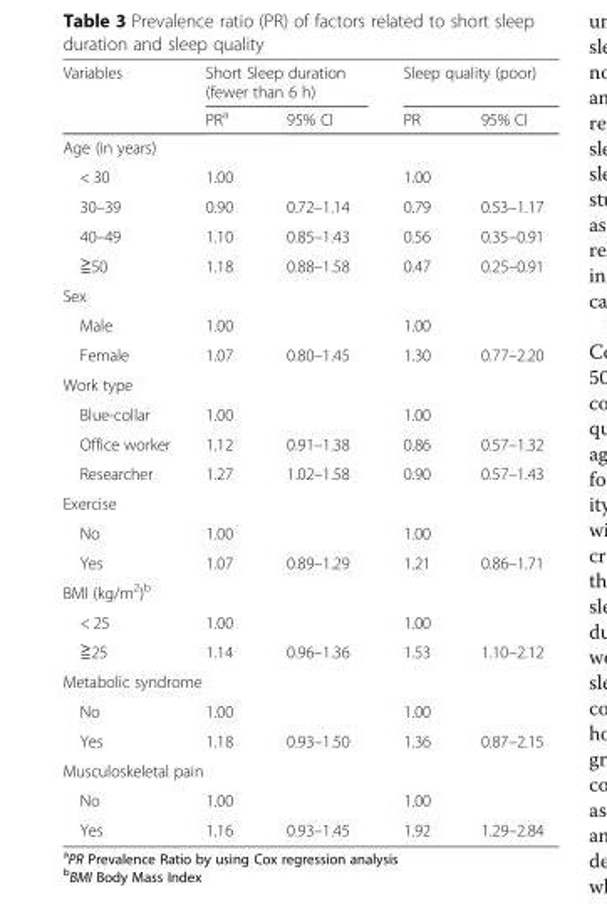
<table><thead><tr><td rowspan="2">Variables</td><td colspan="2">Short Sleep duration (fewer than 6 h)</td><td colspan="2">Sleep quality (poor)</td></tr><tr><td>PR<sup>a</sup></td><td>95% CI</td><td>PR</td><td>95% CI</td></tr></thead><tbody><tr><td colspan="5">Age (in years)</td></tr><tr><td>&lt; 30</td><td>1.00</td><td></td><td>1.00</td><td></td></tr><tr><td>30–39</td><td>0.90</td><td>0.72–1.14</td><td>0.79</td><td>0.53–1.17</td></tr><tr><td>40–49</td><td>1.10</td><td>0.85–1.43</td><td>0.56</td><td>0.35–0.91</td></tr><tr><td>≧50</td><td>1.18</td><td>0.88–1.58</td><td>0.47</td><td>0.25–0.91</td></tr><tr><td colspan="5">Sex</td></tr><tr><td>Male</td><td>1.00</td><td></td><td>1.00</td><td></td></tr><tr><td>Female</td><td>1.07</td><td>0.80–1.45</td><td>1.30</td><td>0.77–2.20</td></tr><tr><td colspan="5">Work type</td></tr><tr><td>Blue-collar</td><td>1.00</td><td></td><td>1.00</td><td></td></tr><tr><td>Office worker</td><td>1.12</td><td>0.91–1.38</td><td>0.86</td><td>0.57–1.32</td></tr><tr><td>Researcher</td><td>1.27</td><td>1.02–1.58</td><td>0.90</td><td>0.57–1.43</td></tr><tr><td colspan="5">Exercise</td></tr><tr><td>No</td><td>1.00</td><td></td><td>1.00</td><td></td></tr><tr><td>Yes</td><td>1.07</td><td>0.89–1.29</td><td>1.21</td><td>0.86–1.71</td></tr><tr><td colspan="5">BMI (kg/m<sup>2</sup>)<sup>b</sup></td></tr><tr><td>&lt; 25</td><td>1.00</td><td></td><td>1.00</td><td></td></tr><tr><td>≧25</td><td>1.14</td><td>0.96–1.36</td><td>1.53</td><td>1.10–2.12</td></tr><tr><td colspan="5">Metabolic syndrome</td></tr><tr><td>No</td><td>1.00</td><td></td><td>1.00</td><td></td></tr><tr><td>Yes</td><td>1.18</td><td>0.93–1.50</td><td>1.36</td><td>0.87–2.15</td></tr><tr><td colspan="5">Musculoskeletal pain</td></tr><tr><td>No</td><td>1.00</td><td></td><td>1.00</td><td></td></tr><tr><td>Yes</td><td>1.16</td><td>0.93–1.45</td><td>1.92</td><td>1.29–2.84</td></tr></tbody></table>